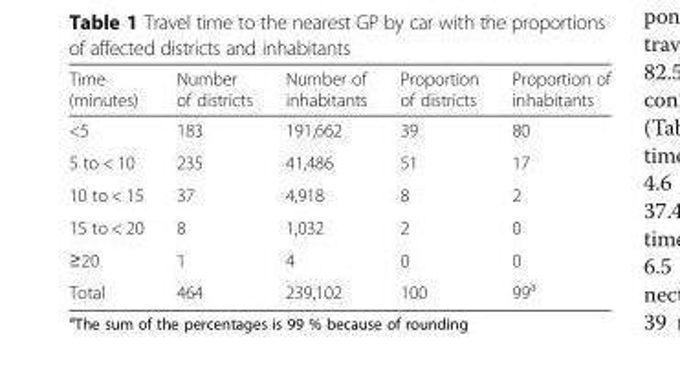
<table><thead><tr><td>Time (minutes)</td><td>Number of districts</td><td>Number of inhabitants</td><td>Proportion of districts</td><td>Proportion of inhabitants</td></tr></thead><tbody><tr><td>&lt;5</td><td>183</td><td>191,662</td><td>39</td><td>80</td></tr><tr><td>5 to &lt; 10</td><td>235</td><td>41,486</td><td>51</td><td>17</td></tr><tr><td>10 to &lt; 15</td><td>37</td><td>4,918</td><td>8</td><td>2</td></tr><tr><td>15 to &lt; 20</td><td>8</td><td>1,032</td><td>2</td><td>0</td></tr><tr><td>≥20</td><td>1</td><td>4</td><td>0</td><td>0</td></tr><tr><td>Total</td><td>464</td><td>239,102</td><td>100</td><td>99<sup>a</sup></td></tr></tbody></table>